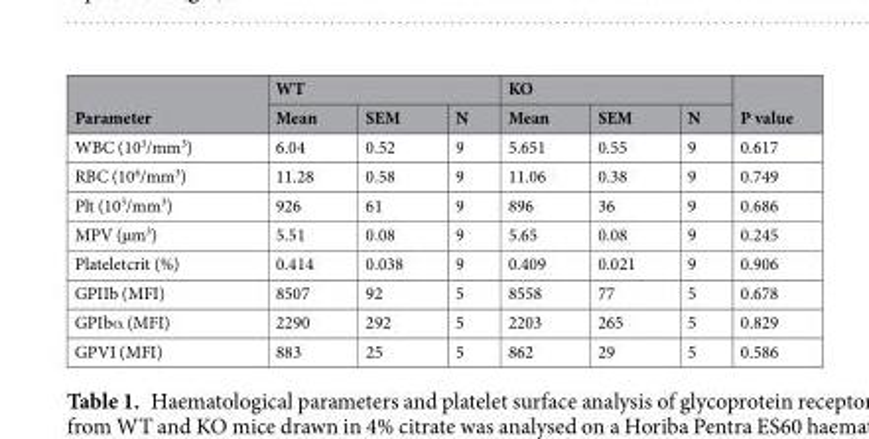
<table><thead><tr><td rowspan="2">Parameter</td><td colspan="3">WT</td><td colspan="3">KO</td><td rowspan="2">P value</td></tr><tr><td>Mean</td><td>SEM</td><td>N</td><td>Mean</td><td>SEM</td><td>N</td></tr></thead><tbody><tr><td>WBC (10<sup>3</sup>/mm<sup>3</sup>)</td><td>6.04</td><td>0.52</td><td>9</td><td>5.651</td><td>0.55</td><td>9</td><td>0.617</td></tr><tr><td>RBC (10<sup>6</sup>/mm<sup>3</sup>)</td><td>11.28</td><td>0.58</td><td>9</td><td>11.06</td><td>0.38</td><td>9</td><td>0.749</td></tr><tr><td>Plt (10<sup>3</sup>/mm<sup>3</sup>)</td><td>926</td><td>61</td><td>9</td><td>896</td><td>36</td><td>9</td><td>0.686</td></tr><tr><td>MPV (µm<sup>3</sup>)</td><td>5.51</td><td>0.08</td><td>9</td><td>5.65</td><td>0.08</td><td>9</td><td>0.245</td></tr><tr><td>Plateletcrit (%)</td><td>0.414</td><td>0.038</td><td>9</td><td>0.409</td><td>0.021</td><td>9</td><td>0.906</td></tr><tr><td>GPIIb (MFI)</td><td>8507</td><td>92</td><td>5</td><td>8558</td><td>77</td><td>5</td><td>0.678</td></tr><tr><td>GPIbα (MFI)</td><td>2290</td><td>292</td><td>5</td><td>2203</td><td>265</td><td>5</td><td>0.829</td></tr><tr><td>GPVI (MFI)</td><td>883</td><td>25</td><td>5</td><td>862</td><td>29</td><td>5</td><td>0.586</td></tr></tbody></table>